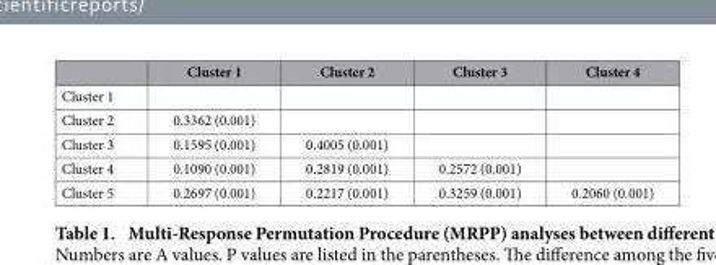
<table><thead><tr><td></td><td>Cluster 1</td><td>Cluster 2</td><td>Cluster 3</td><td>Cluster 4</td></tr></thead><tbody><tr><td colspan="5">Cluster 1</td></tr><tr><td>Cluster 2</td><td>0.3362 (0.001)</td><td></td><td></td><td></td></tr><tr><td>Cluster 3</td><td>0.1595 (0.001)</td><td>0.4005 (0.001)</td><td></td><td></td></tr><tr><td>Cluster 4</td><td>0.1090 (0.001)</td><td>0.2819 (0.001)</td><td>0.2572 (0.001)</td><td></td></tr><tr><td>Cluster 5</td><td>0.2697 (0.001)</td><td>0.2217 (0.001)</td><td>0.3259 (0.001)</td><td>0.2060 (0.001)</td></tr></tbody></table>